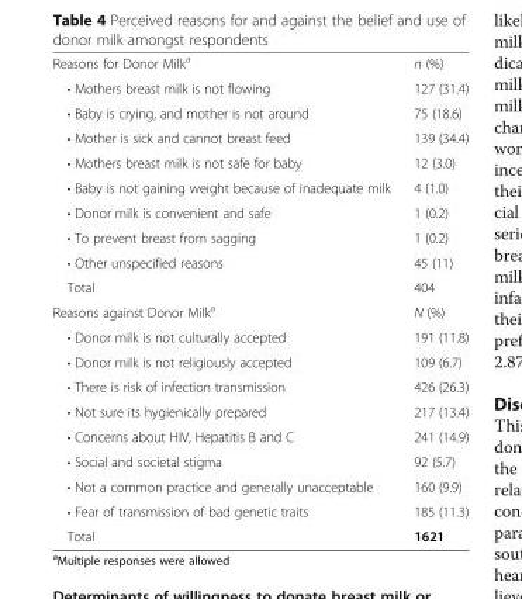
<table><tbody><tr><td>Reasons for Donor Milk<sup>a</sup></td><td>n (%)</td></tr><tr><td>• Mothers breast milk is not flowing</td><td>127 (31.4)</td></tr><tr><td>• Baby is crying, and mother is not around</td><td>75 (18.6)</td></tr><tr><td>• Mother is sick and cannot breast feed</td><td>139 (34.4)</td></tr><tr><td>• Mothers breast milk is not safe for baby</td><td>12 (3.0)</td></tr><tr><td>• Baby is not gaining weight because of inadequate milk</td><td>4 (1.0)</td></tr><tr><td>• Donor milk is convenient and safe</td><td>1 (0.2)</td></tr><tr><td>• To prevent breast from sagging</td><td>1 (0.2)</td></tr><tr><td>• Other unspecified reasons</td><td>45 (11)</td></tr><tr><td>Total</td><td>404</td></tr><tr><td>Reasons against Donor Milk<sup>a</sup></td><td>N (%)</td></tr><tr><td>• Donor milk is not culturally accepted</td><td>191 (11.8)</td></tr><tr><td>• Donor milk is not religiously accepted</td><td>109 (6.7)</td></tr><tr><td>• There is risk of infection transmission</td><td>426 (26.3)</td></tr><tr><td>• Not sure its hygienically prepared</td><td>217 (13.4)</td></tr><tr><td>• Concerns about HIV, Hepatitis B and C</td><td>241 (14.9)</td></tr><tr><td>• Social and societal stigma</td><td>92 (5.7)</td></tr><tr><td>• Not a common practice and generally unacceptable</td><td>160 (9.9)</td></tr><tr><td>• Fear of transmission of bad genetic traits</td><td>185 (11.3)</td></tr><tr><td>Total</td><td>1621</td></tr></tbody></table>